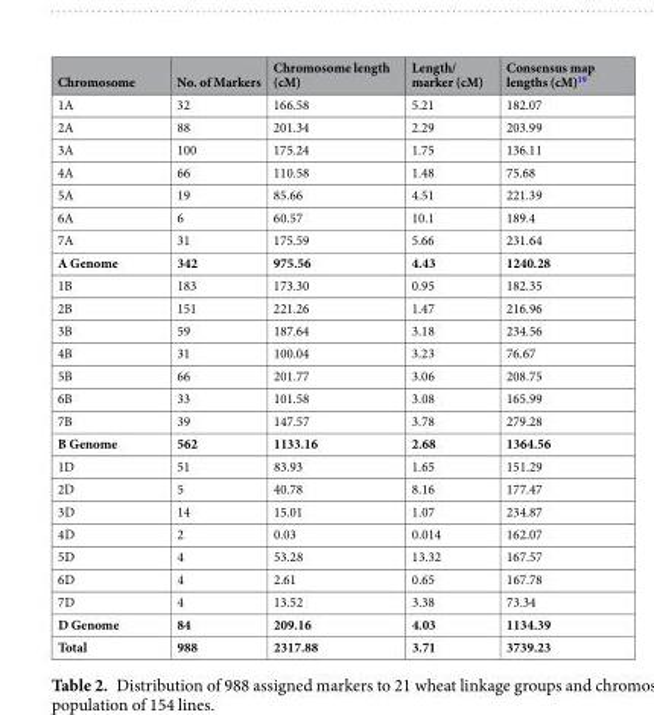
<table><thead><tr><td>Chromosome</td><td>No. of Markers</td><td>Chromosome length (cM)</td><td>Length/ marker (cM)</td><td>Consensus map lengths (cM)<sup>19</sup></td></tr></thead><tbody><tr><td>1A</td><td>32</td><td>166.58</td><td>5.21</td><td>182.07</td></tr><tr><td>2A</td><td>88</td><td>201.34</td><td>2.29</td><td>203.99</td></tr><tr><td>3A</td><td>100</td><td>175.24</td><td>1.75</td><td>136.11</td></tr><tr><td>4A</td><td>66</td><td>110.58</td><td>1.48</td><td>75.68</td></tr><tr><td>5A</td><td>19</td><td>85.66</td><td>4.51</td><td>221.39</td></tr><tr><td>6A</td><td>6</td><td>60.57</td><td>10.1</td><td>189.4</td></tr><tr><td>7A</td><td>31</td><td>175.59</td><td>5.66</td><td>231.64</td></tr><tr><td>A Genome</td><td>342</td><td>975.56</td><td>4.43</td><td>1240.28</td></tr><tr><td>1B</td><td>183</td><td>173.30</td><td>0.95</td><td>182.35</td></tr><tr><td>2B</td><td>151</td><td>221.26</td><td>1.47</td><td>216.96</td></tr><tr><td>3B</td><td>59</td><td>187.64</td><td>3.18</td><td>234.56</td></tr><tr><td>4B</td><td>31</td><td>100.04</td><td>3.23</td><td>76.67</td></tr><tr><td>5B</td><td>66</td><td>201.77</td><td>3.06</td><td>208.75</td></tr><tr><td>6B</td><td>33</td><td>101.58</td><td>3.08</td><td>165.99</td></tr><tr><td>7B</td><td>39</td><td>147.57</td><td>3.78</td><td>279.28</td></tr><tr><td>B Genome</td><td>562</td><td>1133.16</td><td>2.68</td><td>1364.56</td></tr><tr><td>1D</td><td>51</td><td>83.93</td><td>1.65</td><td>151.29</td></tr><tr><td>2D</td><td>5</td><td>40.78</td><td>8.16</td><td>177.47</td></tr><tr><td>3D</td><td>14</td><td>15.01</td><td>1.07</td><td>234.87</td></tr><tr><td>4D</td><td>2</td><td>0.03</td><td>0.014</td><td>162.07</td></tr><tr><td>5D</td><td>4</td><td>53.28</td><td>13.32</td><td>167.57</td></tr><tr><td>6D</td><td>4</td><td>2.61</td><td>0.65</td><td>167.78</td></tr><tr><td>7D</td><td>4</td><td>13.52</td><td>3.38</td><td>73.34</td></tr><tr><td>D Genome</td><td>84</td><td>209.16</td><td>4.03</td><td>1134.39</td></tr><tr><td>Total</td><td>988</td><td>2317.88</td><td>3.71</td><td>3739.23</td></tr></tbody></table>